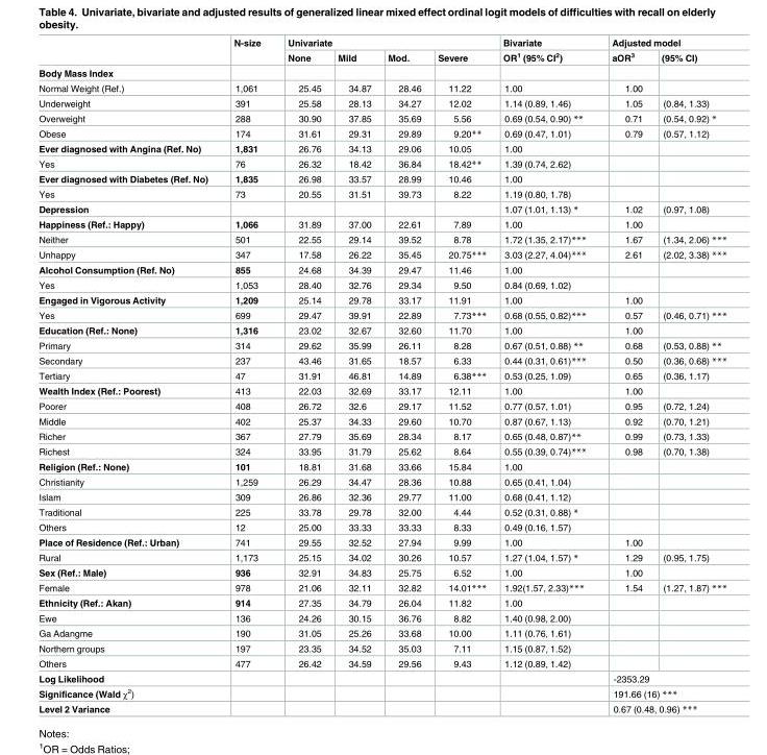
<table><thead><tr><td rowspan="2"></td><td rowspan="2">N-size</td><td colspan="4">Univariate</td><td rowspan="2">Bivariate OR<sup>1</sup> (95% CI<sup>2</sup>)</td><td colspan="2">Adjusted model</td></tr><tr><td>None</td><td>Mild</td><td>Mod.</td><td>Severe</td><td>aOR<sup>3</sup></td><td>(95% CI)</td></tr></thead><tbody><tr><td colspan="9">Body Mass Index</td></tr><tr><td>Normal Weight (Ref.)</td><td>1,061</td><td>25.45</td><td>34.87</td><td>28.46</td><td>11.22</td><td>1.00</td><td>1.00</td><td></td></tr><tr><td>Underweight</td><td>391</td><td>25.58</td><td>28.13</td><td>34.27</td><td>12.02</td><td>1.14 (0.89, 1.46)</td><td>1.05</td><td>(0.84, 1.33)</td></tr><tr><td>Overweight</td><td>288</td><td>30.90</td><td>37.85</td><td>35.69</td><td>5.56</td><td>0.69 (0.54, 0.90) **</td><td>0.71</td><td>(0.54, 0.92) *</td></tr><tr><td>Obese</td><td>174</td><td>31.61</td><td>29.31</td><td>29.89</td><td>9.20**</td><td>0.69 (0.47, 1.01)</td><td>0.79</td><td>(0.57, 1.12)</td></tr><tr><td>Ever diagnosed with Angina (Ref. No)</td><td>1,831</td><td>26.76</td><td>34.13</td><td>29.06</td><td>10.05</td><td>1.00</td><td></td><td></td></tr><tr><td>Yes</td><td>76</td><td>26.32</td><td>18.42</td><td>36.84</td><td>18.42**</td><td>1.39 (0.74, 2.62)</td><td></td><td></td></tr><tr><td>Ever diagnosed with Diabetes (Ref. No)</td><td>1,835</td><td>26.98</td><td>33.57</td><td>28.99</td><td>10.46</td><td>1.00</td><td></td><td></td></tr><tr><td>Yes</td><td>73</td><td>20.55</td><td>31.51</td><td>39.73</td><td>8.22</td><td>1.19 (0.80, 1.78)</td><td></td><td></td></tr><tr><td>Depression</td><td></td><td></td><td></td><td></td><td></td><td>1.07 (1.01, 1.13) *</td><td>1.02</td><td>(0.97, 1.08)</td></tr><tr><td>Happiness (Ref.: Happy)</td><td>1,066</td><td>31.89</td><td>37.00</td><td>22.61</td><td>7.89</td><td>1.00</td><td>1.00</td><td></td></tr><tr><td>Neither</td><td>501</td><td>22.55</td><td>29.14</td><td>39.52</td><td>8.78</td><td>1.72 (1.35, 2.17)***</td><td>1.67</td><td>(1.34, 2.06) ***</td></tr><tr><td>Unhappy</td><td>347</td><td>17.58</td><td>26.22</td><td>35.45</td><td>20.75***</td><td>3.03 (2.27, 4.04)***</td><td>2.61</td><td>(2.02, 3.38) ***</td></tr><tr><td>Alcohol Consumption (Ref. No)</td><td>855</td><td>24.68</td><td>34.39</td><td>29.47</td><td>11.46</td><td>1.00</td><td></td><td></td></tr><tr><td>Yes</td><td>1,053</td><td>28.40</td><td>32.76</td><td>29.34</td><td>9.50</td><td>0.84 (0.69, 1.02)</td><td></td><td></td></tr><tr><td>Engaged in Vigorous Activity</td><td>1,209</td><td>25.14</td><td>29.78</td><td>33.17</td><td>11.91</td><td>1.00</td><td>1.00</td><td></td></tr><tr><td>Yes</td><td>699</td><td>29.47</td><td>39.91</td><td>22.89</td><td>7.73***</td><td>0.68 (0.55, 0.82)***</td><td>0.57</td><td>(0.46, 0.71) ***</td></tr><tr><td>Education (Ref.: None)</td><td>1,316</td><td>23.02</td><td>32.67</td><td>32.60</td><td>11.70</td><td>1.00</td><td>1.00</td><td></td></tr><tr><td>Primary</td><td>314</td><td>29.62</td><td>35.99</td><td>26.11</td><td>8.28</td><td>0.67 (0.51, 0.88) **</td><td>0.68</td><td>(0.53, 0.88) **</td></tr><tr><td>Secondary</td><td>237</td><td>43.46</td><td>31.65</td><td>18.57</td><td>6.33</td><td>0.44 (0.31, 0.61)***</td><td>0.50</td><td>(0.36, 0.68) ***</td></tr><tr><td>Tertiary</td><td>47</td><td>31.91</td><td>46.81</td><td>14.89</td><td>6.38***</td><td>0.53 (0.25, 1.09)</td><td>0.65</td><td>(0.36, 1.17)</td></tr><tr><td>Wealth Index (Ref.: Poorest)</td><td>413</td><td>22.03</td><td>32.69</td><td>33.17</td><td>12.11</td><td>1.00</td><td>1.00</td><td></td></tr><tr><td>Poorer</td><td>408</td><td>26.72</td><td>32.6</td><td>29.17</td><td>11.52</td><td>0.77 (0.57, 1.01)</td><td>0.95</td><td>(0.72, 1.24)</td></tr><tr><td>Middle</td><td>402</td><td>25.37</td><td>34.33</td><td>29.60</td><td>10.70</td><td>0.87 (0.67, 1.13)</td><td>0.92</td><td>(0.70, 1.21)</td></tr><tr><td>Richer</td><td>367</td><td>27.79</td><td>35.69</td><td>28.34</td><td>8.17</td><td>0.65 (0.48, 0.87)**</td><td>0.99</td><td>(0.73, 1.33)</td></tr><tr><td>Richest</td><td>324</td><td>33.95</td><td>31.79</td><td>25.62</td><td>8.64</td><td>0.55 (0.39, 0.74)***</td><td>0.98</td><td>(0.70, 1.38)</td></tr><tr><td>Religion (Ref.: None)</td><td>101</td><td>18.81</td><td>31.68</td><td>33.66</td><td>15.84</td><td>1.00</td><td></td><td></td></tr><tr><td>Christianity</td><td>1,259</td><td>26.29</td><td>34.47</td><td>28.36</td><td>10.88</td><td>0.65 (0.41, 1.04)</td><td></td><td></td></tr><tr><td>Islam</td><td>309</td><td>26.86</td><td>32.36</td><td>29.77</td><td>11.00</td><td>0.68 (0.41, 1.12)</td><td></td><td></td></tr><tr><td>Traditional</td><td>225</td><td>33.78</td><td>29.78</td><td>32.00</td><td>4.44</td><td>0.52 (0.31, 0.88) *</td><td></td><td></td></tr><tr><td>Others</td><td>12</td><td>25.00</td><td>33.33</td><td>33.33</td><td>8.33</td><td>0.49 (0.16, 1.57)</td><td></td><td></td></tr><tr><td>Place of Residence (Ref.: Urban)</td><td>741</td><td>29.55</td><td>32.52</td><td>27.94</td><td>9.99</td><td>1.00</td><td>1.00</td><td></td></tr><tr><td>Rural</td><td>1,173</td><td>25.15</td><td>34.02</td><td>30.26</td><td>10.57</td><td>1.27 (1.04, 1.57) *</td><td>1.29</td><td>(0.95, 1.75)</td></tr><tr><td>Sex (Ref.: Male)</td><td>936</td><td>32.91</td><td>34.83</td><td>25.75</td><td>6.52</td><td>1.00</td><td>1.00</td><td></td></tr><tr><td>Female</td><td>978</td><td>21.06</td><td>32.11</td><td>32.82</td><td>14.01***</td><td>1.92(1.57, 2.33)***</td><td>1.54</td><td>(1.27, 1.87) ***</td></tr><tr><td>Ethnicity (Ref.: Akan)</td><td>914</td><td>27.35</td><td>34.79</td><td>26.04</td><td>11.82</td><td>1.00</td><td></td><td></td></tr><tr><td>Ewe</td><td>136</td><td>24.26</td><td>30.15</td><td>36.76</td><td>8.82</td><td>1.40 (0.98, 2.00)</td><td></td><td></td></tr><tr><td>Ga Adangme</td><td>190</td><td>31.05</td><td>25.26</td><td>33.68</td><td>10.00</td><td>1.11 (0.76, 1.61)</td><td></td><td></td></tr><tr><td>Northern groups</td><td>197</td><td>23.35</td><td>34.52</td><td>35.03</td><td>7.11</td><td>1.15 (0.87, 1.52)</td><td></td><td></td></tr><tr><td>Others</td><td>477</td><td>26.42</td><td>34.59</td><td>29.56</td><td>9.43</td><td>1.12 (0.89, 1.42)</td><td></td><td></td></tr><tr><td>Log Likelihood</td><td></td><td></td><td></td><td></td><td></td><td></td><td colspan="2">-2353.29</td></tr><tr><td>Significance (Wald χ<sup>2</sup>)</td><td></td><td></td><td></td><td></td><td></td><td></td><td colspan="2">191.66 (16) ***</td></tr><tr><td>Level 2 Variance</td><td></td><td></td><td></td><td></td><td></td><td></td><td colspan="2">0.67 (0.48, 0.96) ***</td></tr></tbody></table>